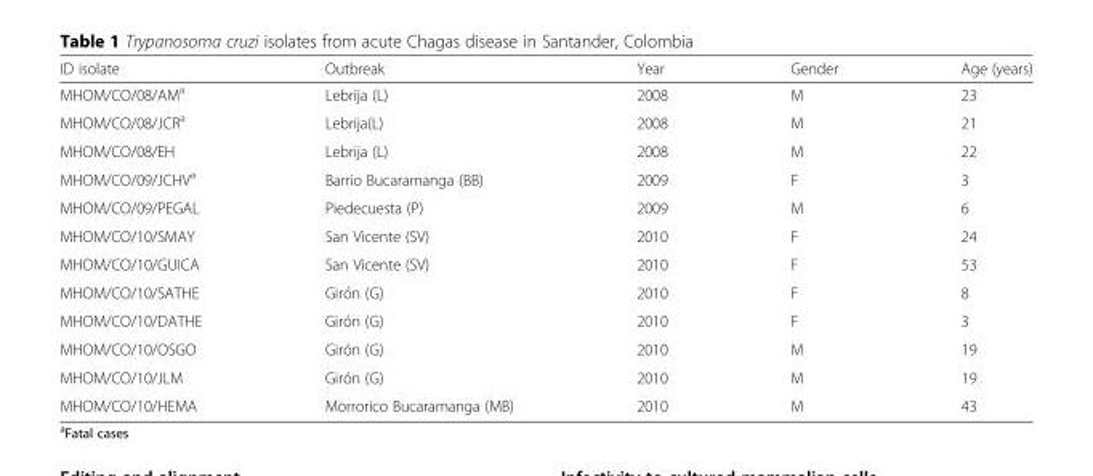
<table><thead><tr><td>ID isolate</td><td>Outbreak</td><td>Year</td><td>Gender</td><td>Age (years)</td></tr></thead><tbody><tr><td>MHOM/CO/08/AM<sup>a</sup></td><td>Lebrija (L)</td><td>2008</td><td>M</td><td>23</td></tr><tr><td>MHOM/CO/08/JCR<sup>a</sup></td><td>Lebrija(L)</td><td>2008</td><td>M</td><td>21</td></tr><tr><td>MHOM/CO/08/EH</td><td>Lebrija (L)</td><td>2008</td><td>M</td><td>22</td></tr><tr><td>MHOM/CO/09/JCHV<sup>a</sup></td><td>Barrio Bucaramanga (BB)</td><td>2009</td><td>F</td><td>3</td></tr><tr><td>MHOM/CO/09/PEGAL</td><td>Piedecuesta (P)</td><td>2009</td><td>M</td><td>6</td></tr><tr><td>MHOM/CO/10/SMAY</td><td>San Vicente (SV)</td><td>2010</td><td>F</td><td>24</td></tr><tr><td>MHOM/CO/10/GUICA</td><td>San Vicente (SV)</td><td>2010</td><td>F</td><td>53</td></tr><tr><td>MHOM/CO/10/SATHE</td><td>Girón (G)</td><td>2010</td><td>F</td><td>8</td></tr><tr><td>MHOM/CO/10/DATHE</td><td>Girón (G)</td><td>2010</td><td>F</td><td>3</td></tr><tr><td>MHOM/CO/10/OSGO</td><td>Girón (G)</td><td>2010</td><td>M</td><td>19</td></tr><tr><td>MHOM/CO/10/JLM</td><td>Girón (G)</td><td>2010</td><td>M</td><td>19</td></tr><tr><td>MHOM/CO/10/HEMA</td><td>Morrorico Bucaramanga (MB)</td><td>2010</td><td>M</td><td>43</td></tr></tbody></table>